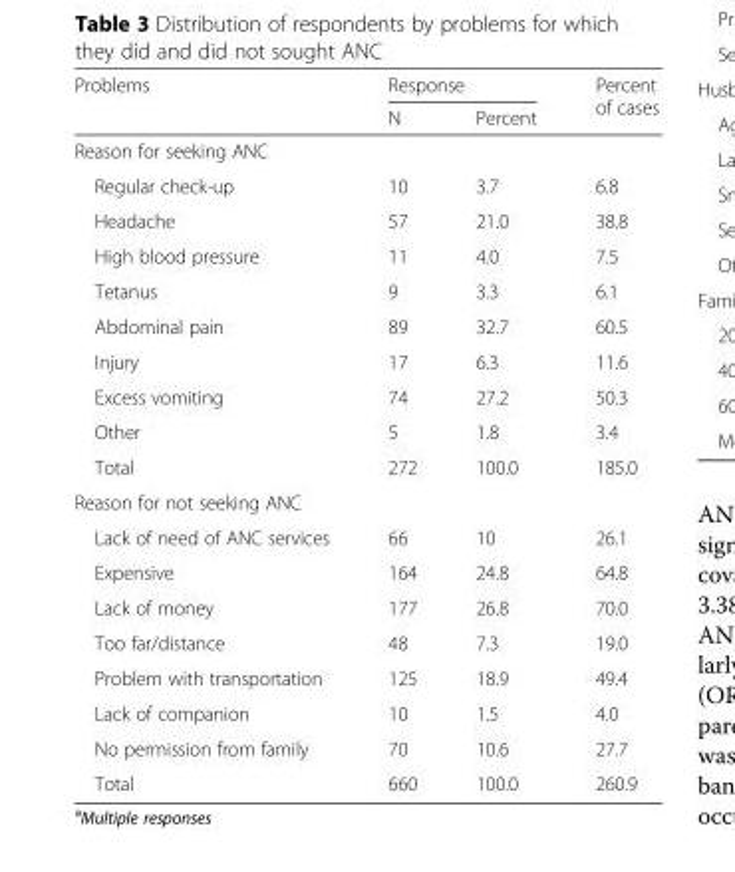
<table><thead><tr><td rowspan="2">Problems</td><td colspan="2">Response</td><td rowspan="2">Percent of cases</td></tr><tr><td>N</td><td>Percent</td></tr></thead><tbody><tr><td colspan="4">Reason for seeking ANC</td></tr><tr><td>Regular check-up</td><td>10</td><td>3.7</td><td>6.8</td></tr><tr><td>Headache</td><td>57</td><td>21.0</td><td>38.8</td></tr><tr><td>High blood pressure</td><td>11</td><td>4.0</td><td>7.5</td></tr><tr><td>Tetanus</td><td>9</td><td>3.3</td><td>6.1</td></tr><tr><td>Abdominal pain</td><td>89</td><td>32.7</td><td>60.5</td></tr><tr><td>Injury</td><td>17</td><td>6.3</td><td>11.6</td></tr><tr><td>Excess vomiting</td><td>74</td><td>27.2</td><td>50.3</td></tr><tr><td>Other</td><td>5</td><td>1.8</td><td>3.4</td></tr><tr><td>Total</td><td>272</td><td>100.0</td><td>185.0</td></tr><tr><td colspan="4">Reason for not seeking ANC</td></tr><tr><td>Lack of need of ANC services</td><td>66</td><td>10</td><td>26.1</td></tr><tr><td>Expensive</td><td>164</td><td>24.8</td><td>64.8</td></tr><tr><td>Lack of money</td><td>177</td><td>26.8</td><td>70.0</td></tr><tr><td>Too far/distance</td><td>48</td><td>7.3</td><td>19.0</td></tr><tr><td>Problem with transportation</td><td>125</td><td>18.9</td><td>49.4</td></tr><tr><td>Lack of companion</td><td>10</td><td>1.5</td><td>4.0</td></tr><tr><td>No permission from family</td><td>70</td><td>10.6</td><td>27.7</td></tr><tr><td>Total</td><td>660</td><td>100.0</td><td>260.9</td></tr></tbody></table>